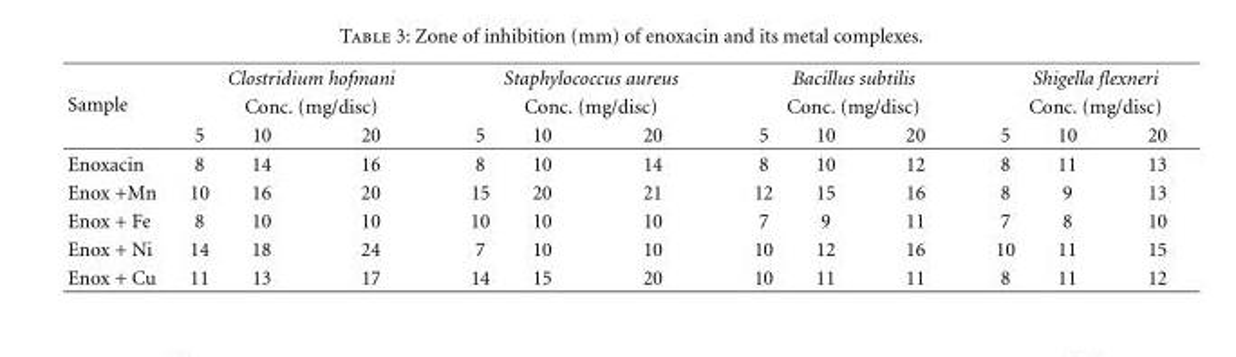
<table><thead><tr><td rowspan="3">Sample</td><td rowspan="2" colspan="3">Clostridium hofmani Conc. (mg/disc)</td><td rowspan="2" colspan="3">Staphylococcus aureus Conc. (mg/disc)</td><td rowspan="2" colspan="3">Bacillus subtilis Conc. (mg/disc)</td><td rowspan="2" colspan="3">Shigella flexneri Conc. (mg/disc)</td></tr><tr></tr><tr><td>5</td><td>10</td><td>20</td><td>5</td><td>10</td><td>20</td><td>5</td><td>10</td><td>20</td><td>5</td><td>10</td><td>20</td></tr></thead><tbody><tr><td>Enoxacin</td><td>8</td><td>14</td><td>16</td><td>8</td><td>10</td><td>14</td><td>8</td><td>10</td><td>12</td><td>8</td><td>11</td><td>13</td></tr><tr><td>Enox +Mn</td><td>10</td><td>16</td><td>20</td><td>15</td><td>20</td><td>21</td><td>12</td><td>15</td><td>16</td><td>8</td><td>9</td><td>13</td></tr><tr><td>Enox + Fe</td><td>8</td><td>10</td><td>10</td><td>10</td><td>10</td><td>10</td><td>7</td><td>9</td><td>11</td><td>7</td><td>8</td><td>10</td></tr><tr><td>Enox + Ni</td><td>14</td><td>18</td><td>24</td><td>7</td><td>10</td><td>10</td><td>10</td><td>12</td><td>16</td><td>10</td><td>11</td><td>15</td></tr><tr><td>Enox + Cu</td><td>11</td><td>13</td><td>17</td><td>14</td><td>15</td><td>20</td><td>10</td><td>11</td><td>11</td><td>8</td><td>11</td><td>12</td></tr></tbody></table>